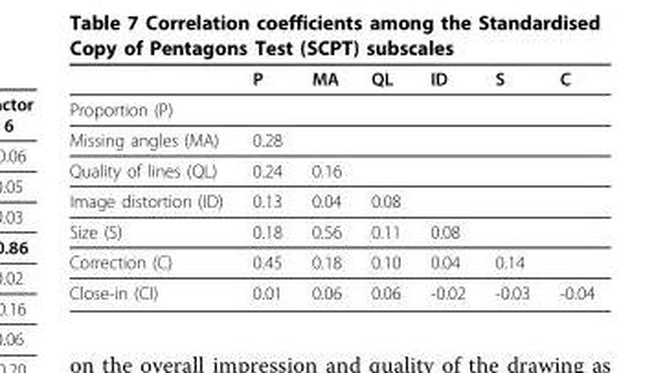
<table><thead><tr><td></td><td>P</td><td>MA</td><td>QL</td><td>ID</td><td>S</td><td>C</td></tr></thead><tbody><tr><td colspan="7">Proportion (P)</td></tr><tr><td>Missing angles (MA)</td><td>0.28</td><td></td><td></td><td></td><td></td><td></td></tr><tr><td>Quality of lines (QL)</td><td>0.24</td><td>0.16</td><td></td><td></td><td></td><td></td></tr><tr><td>Image distortion (ID)</td><td>0.13</td><td>0.04</td><td>0.08</td><td></td><td></td><td></td></tr><tr><td>Size (S)</td><td>0.18</td><td>0.56</td><td>0.11</td><td>0.08</td><td></td><td></td></tr><tr><td>Correction (C)</td><td>0.45</td><td>0.18</td><td>0.10</td><td>0.04</td><td>0.14</td><td></td></tr><tr><td>Close-in (CI)</td><td>0.01</td><td>0.06</td><td>0.06</td><td>-0.02</td><td>-0.03</td><td>-0.04</td></tr></tbody></table>